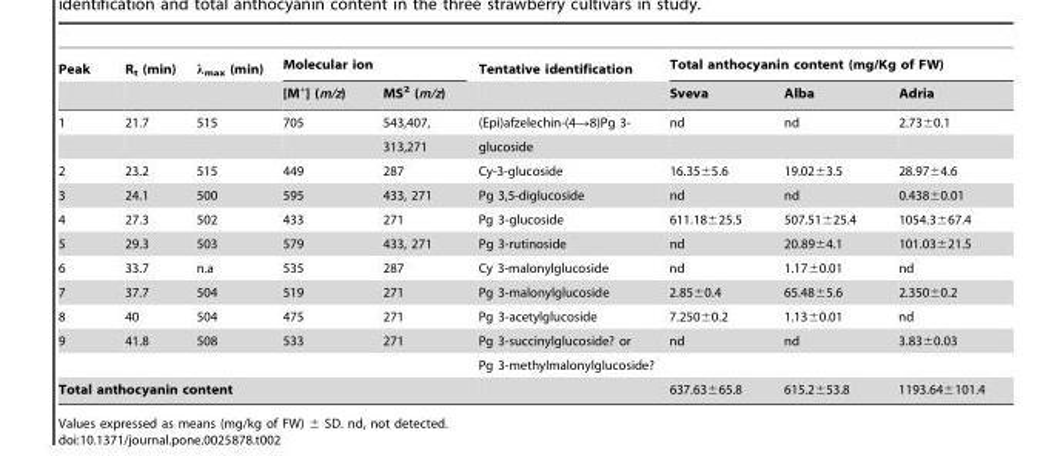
<table><thead><tr><td rowspan="2">Peak</td><td rowspan="2">R<sub>t</sub> (min)</td><td rowspan="2">λ<sub>max</sub> (min)</td><td colspan="2">Molecular ion</td><td rowspan="2">Tentative identification</td><td colspan="3">Total anthocyanin content (mg/Kg of FW)</td></tr><tr><td>[M<sup>+</sup>] (m/z)</td><td>MS<sup>2</sup> (m/z)</td><td>Sveva</td><td>Alba</td><td>Adria</td></tr></thead><tbody><tr><td rowspan="2">1</td><td>21.7</td><td>515</td><td>705</td><td>543,407,</td><td>(Epi)afzelechin-(4→8)Pg 3-</td><td>nd</td><td>nd</td><td>2.73±0.1</td></tr><tr><td></td><td></td><td></td><td>313,271</td><td>glucoside</td><td></td><td></td><td></td></tr><tr><td>2</td><td>23.2</td><td>515</td><td>449</td><td>287</td><td>Cy-3-glucoside</td><td>16.35±5.6</td><td>19.02±3.5</td><td>28.97±4.6</td></tr><tr><td>3</td><td>24.1</td><td>500</td><td>595</td><td>433, 271</td><td>Pg 3,5-diglucoside</td><td>nd</td><td>nd</td><td>0.438±0.01</td></tr><tr><td>4</td><td>27.3</td><td>502</td><td>433</td><td>271</td><td>Pg 3-glucoside</td><td>611.18±25.5</td><td>507.51±25.4</td><td>1054.3±67.4</td></tr><tr><td>5</td><td>29.3</td><td>503</td><td>579</td><td>433, 271</td><td>Pg 3-rutinoside</td><td>nd</td><td>20.89±4.1</td><td>101.03±21.5</td></tr><tr><td>6</td><td>33.7</td><td>n.a</td><td>535</td><td>287</td><td>Cy 3-malonylglucoside</td><td>nd</td><td>1.17±0.01</td><td>nd</td></tr><tr><td>7</td><td>37.7</td><td>504</td><td>519</td><td>271</td><td>Pg 3-malonylglucoside</td><td>2.85±0.4</td><td>65.48±5.6</td><td>2.350±0.2</td></tr><tr><td>8</td><td>40</td><td>504</td><td>475</td><td>271</td><td>Pg 3-acetylglucoside</td><td>7.250±0.2</td><td>1.13±0.01</td><td>nd</td></tr><tr><td rowspan="2">9</td><td>41.8</td><td>508</td><td>533</td><td>271</td><td>Pg 3-succinylglucoside? or</td><td>nd</td><td>nd</td><td>3.83±0.03</td></tr><tr><td></td><td></td><td></td><td></td><td>Pg 3-methylmalonylglucoside?</td><td></td><td></td><td></td></tr><tr><td colspan="5">Total anthocyanin content</td><td></td><td>637.63±65.8</td><td>615.2±53.8</td><td>1193.64±101.4</td></tr></tbody></table>